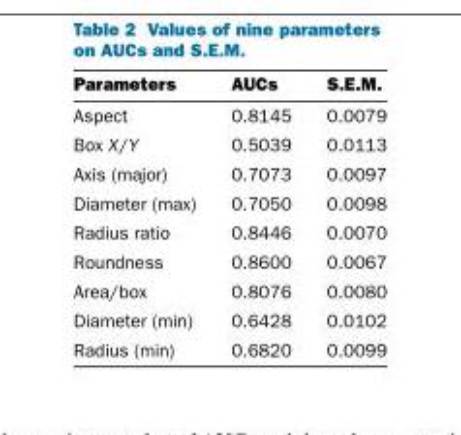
<table><thead><tr><td>Parameters</td><td>AUCs</td><td>S.E.M.</td></tr></thead><tbody><tr><td>Aspect</td><td>0.8145</td><td>0.0079</td></tr><tr><td>Box X/Y</td><td>0.5039</td><td>0.0113</td></tr><tr><td>Axis (major)</td><td>0.7073</td><td>0.0097</td></tr><tr><td>Diameter (max)</td><td>0.7050</td><td>0.0098</td></tr><tr><td>Radius ratio</td><td>0.8446</td><td>0.0070</td></tr><tr><td>Roundness</td><td>0.8600</td><td>0.0067</td></tr><tr><td>Area/box</td><td>0.8076</td><td>0.0080</td></tr><tr><td>Diameter (min)</td><td>0.6428</td><td>0.0102</td></tr><tr><td>Radius (min)</td><td>0.6820</td><td>0.0099</td></tr></tbody></table>